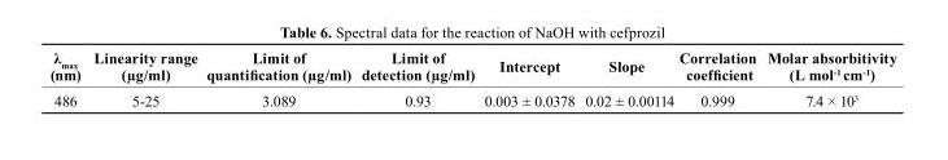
<table><thead><tr><td>λ<sub>max</sub> (nm)</td><td>Linearity range (µg/ml)</td><td>Limit of quantification (µg/ml)</td><td>Limit of detection (µg/ml)</td><td>Intercept</td><td>slope</td><td>correlation coefficient</td><td>Molar absorbitivity (L mol<sup>-1</sup> cm<sup>-1</sup>)</td></tr></thead><tbody><tr><td>486</td><td>5-25</td><td>3.089</td><td>0.93</td><td>0.003 ± 0.0378</td><td>0.02 ± 0.00114</td><td>0.999</td><td>7.4 × 103</td></tr></tbody></table>